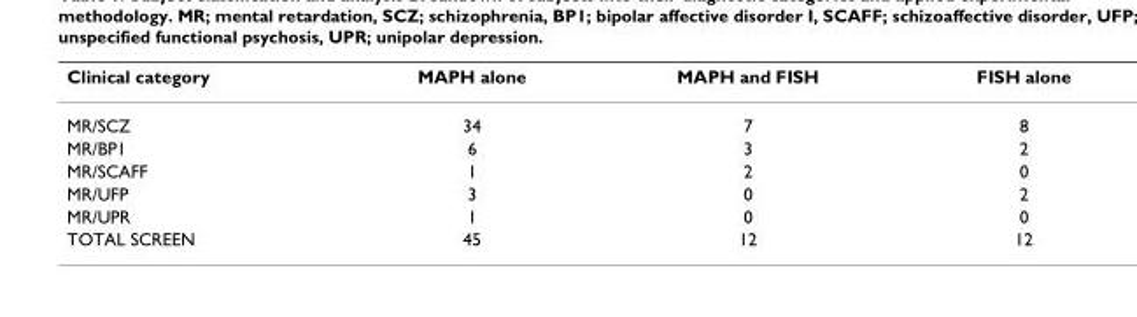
<table><thead><tr><td>Clinical category</td><td>MAPH alone</td><td>MAPH and FISH</td><td>FISH alone</td></tr></thead><tbody><tr><td>MR/SCZ</td><td>34</td><td>7</td><td>8</td></tr><tr><td>MR/BP1</td><td>6</td><td>3</td><td>2</td></tr><tr><td>MR/SCAFF</td><td>1</td><td>2</td><td>0</td></tr><tr><td>MR/UFP</td><td>3</td><td>0</td><td>2</td></tr><tr><td>MR/UPR</td><td>1</td><td>0</td><td>0</td></tr><tr><td>TOTAL SCREEN</td><td>45</td><td>12</td><td>12</td></tr></tbody></table>